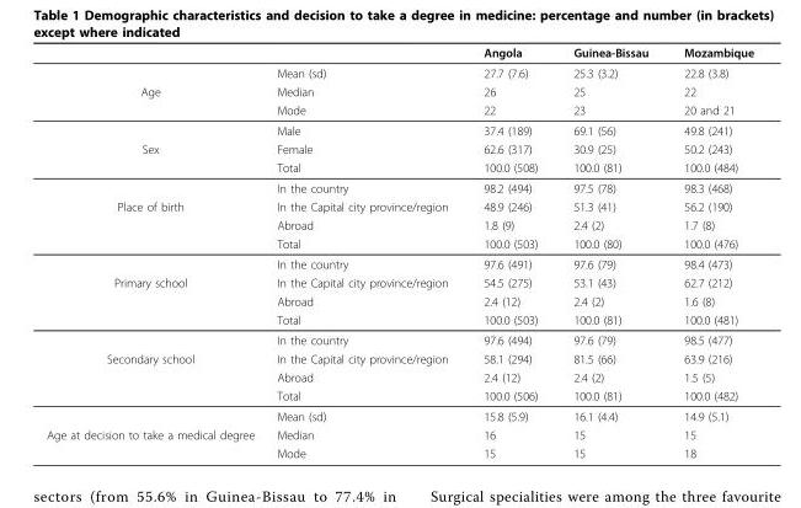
<table><thead><tr><td></td><td></td><td>Angola</td><td>Guinea-Bissau</td><td>Mozambique</td></tr></thead><tbody><tr><td></td><td>Mean (sd)</td><td>27.7 (7.6)</td><td>25.3 (3.2)</td><td>22.8 (3.8)</td></tr><tr><td rowspan="3">Age</td><td>Median</td><td>26</td><td>25</td><td>22</td></tr><tr><td>Mode</td><td>22</td><td>23</td><td>20 and 21</td></tr><tr><td>Male</td><td>37.4 (189)</td><td>69.1 (56)</td><td>49.8 (241)</td></tr><tr><td rowspan="3">Sex</td><td>Female</td><td>62.6 (317)</td><td>30.9 (25)</td><td>50.2 (243)</td></tr><tr><td>Total</td><td>100.0 (508)</td><td>100.0 (81)</td><td>100.0 (484)</td></tr><tr><td>In the country</td><td>98.2 (494)</td><td>97.5 (78)</td><td>98.3 (468)</td></tr><tr><td rowspan="4">Place of birth</td><td>In the Capital city province/region</td><td>48.9 (246)</td><td>51.3 (41)</td><td>56.2 (190)</td></tr><tr><td>Abroad</td><td>1.8 (9)</td><td>2.4 (2)</td><td>1.7 (8)</td></tr><tr><td>Total</td><td>100.0 (503)</td><td>100.0 (80)</td><td>100.0 (476)</td></tr><tr><td>In the country</td><td>97.6 (491)</td><td>97.6 (79)</td><td>98.4 (473)</td></tr><tr><td rowspan="4">Primary school</td><td>In the Capital city province/region</td><td>54.5 (275)</td><td>53.1 (43)</td><td>62.7 (212)</td></tr><tr><td>Abroad</td><td>2.4 (12)</td><td>2.4 (2)</td><td>1.6 (8)</td></tr><tr><td>Total</td><td>100.0 (503)</td><td>100.0 (81)</td><td>100.0 (481)</td></tr><tr><td>In the country</td><td>97.6 (494)</td><td>97.6 (79)</td><td>98.5 (477)</td></tr><tr><td rowspan="4">Secondary school</td><td>In the Capital city province/region</td><td>58.1 (294)</td><td>81.5 (66)</td><td>63.9 (216)</td></tr><tr><td>Abroad</td><td>2.4 (12)</td><td>2.4 (2)</td><td>1.5 (5)</td></tr><tr><td>Total</td><td>100.0 (506)</td><td>100.0 (81)</td><td>100.0 (482)</td></tr><tr><td>Mean (sd)</td><td>15.8 (5.9)</td><td>16.1 (4.4)</td><td>14.9 (5.1)</td></tr><tr><td rowspan="2">Age at decision to take a medical degree</td><td>Median</td><td>16</td><td>15</td><td>15</td></tr><tr><td>Mode</td><td>15</td><td>15</td><td>18</td></tr></tbody></table>